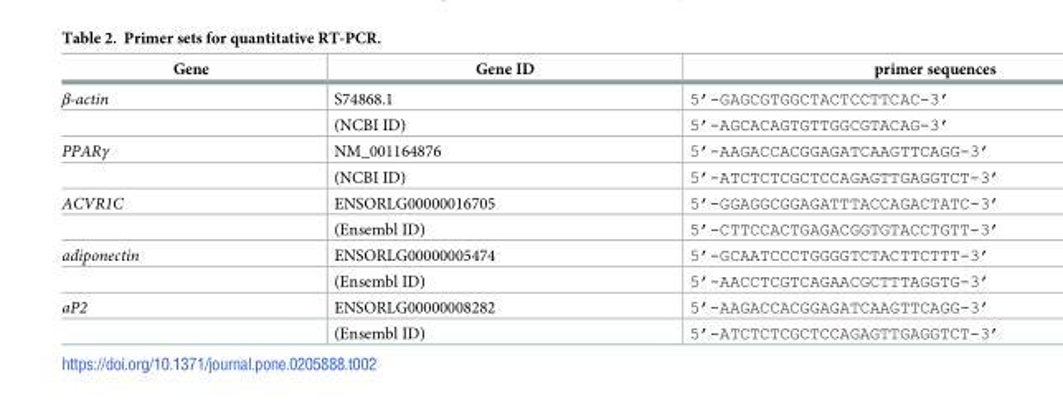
<table><thead><tr><td>Gene</td><td>Gene ID</td><td>primer sequences</td></tr></thead><tbody><tr><td rowspan="2">β-actin</td><td>S74868.1</td><td>5’-GAGCGTGGCTACTCCTTCAC-3’</td></tr><tr><td>(NCBI ID)</td><td>5’-AGCACAGTGTTGGCGTACAG-3’</td></tr><tr><td rowspan="2">PPARγ</td><td>NM_001164876</td><td>5’-AAGACCACGGAGATCAAGTTCAGG-3’</td></tr><tr><td>(NCBI ID)</td><td>5’-ATCTCTCGCTCCAGAGTTGAGGTCT-3’</td></tr><tr><td rowspan="2">ACVR1C</td><td>ENSORLG00000016705</td><td>5’-GGAGGCGGAGATTTACCAGACTATC-3’</td></tr><tr><td>(Ensembl ID)</td><td>5’-CTTCCACTGAGACGGTGTACCTGTT-3’</td></tr><tr><td rowspan="2">adiponectin</td><td>ENSORLG00000005474</td><td>5’-GCAATCCCTGGGGTCTACTTCTTT-3’</td></tr><tr><td>(Ensembl ID)</td><td>5’-AACCTCGTCAGAACGCTTTAGGTG-3’</td></tr><tr><td rowspan="2">aP2</td><td>ENSORLG00000008282</td><td>5’-AAGACCACGGAGATCAAGTTCAGG-3’</td></tr><tr><td>(Ensembl ID)</td><td>5’-ATCTCTCGCTCCAGAGTTGAGGTCT-3’</td></tr></tbody></table>